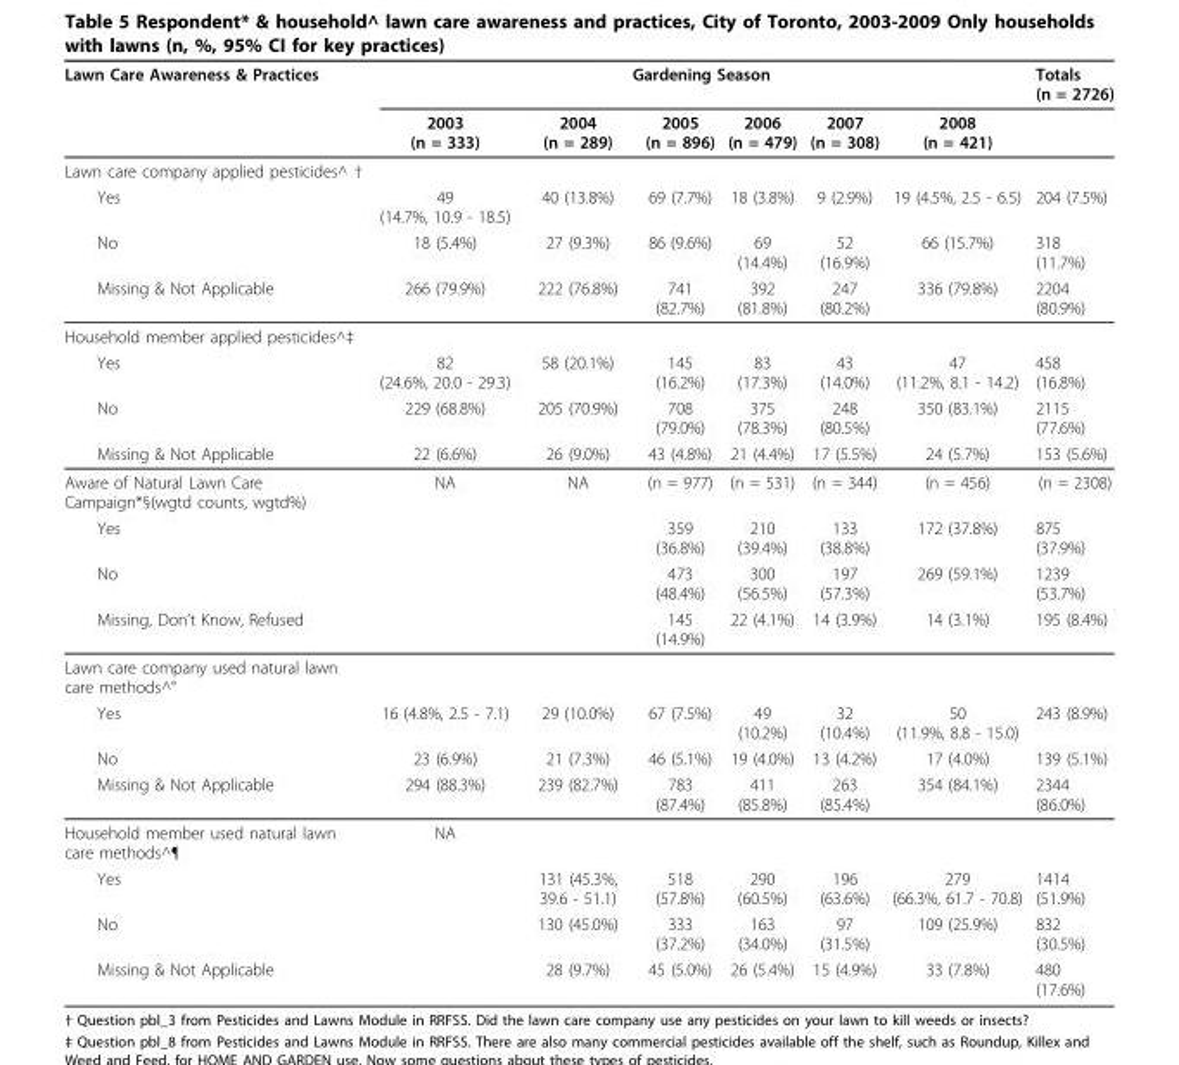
<table><thead><tr><td rowspan="2">Lawn Care Awareness &amp; Practices</td><td colspan="6">Gardening Season</td><td rowspan="2">Totals (n = 2726)</td></tr><tr><td>2003 (n = 333)</td><td>2004 (n = 289)</td><td>2005 (n = 896)</td><td>2006 (n = 479)</td><td>2007 (n = 308)</td><td>2008 (n = 421)</td></tr></thead><tbody><tr><td colspan="8">Lawn care company applied pesticides^ †</td></tr><tr><td>Yes</td><td>49 (14.7%, 10.9 - 18.5)</td><td>40 (13.8%)</td><td>69 (7.7%)</td><td>18 (3.8%)</td><td>9 (2.9%)</td><td>19 (4.5%, 2.5 - 6.5)</td><td>204 (7.5%)</td></tr><tr><td>No</td><td>18 (5.4%)</td><td>27 (9.3%)</td><td>86 (9.6%)</td><td>69 (14.4%)</td><td>52 (16.9%)</td><td>66 (15.7%)</td><td>318 (11.7%)</td></tr><tr><td>Missing &amp; Not Applicable</td><td>266 (79.9%)</td><td>222 (76.8%)</td><td>741 (82.7%)</td><td>392 (81.8%)</td><td>247 (80.2%)</td><td>336 (79.8%)</td><td>2204 (80.9%)</td></tr><tr><td colspan="8">Household member applied pesticides^‡</td></tr><tr><td>Yes</td><td>82 (24.6%, 20.0 - 29.3)</td><td>58 (20.1%)</td><td>145 (16.2%)</td><td>83 (17.3%)</td><td>43 (14.0%)</td><td>47 (11.2%, 8.1 - 14.2)</td><td>458 (16.8%)</td></tr><tr><td>No</td><td>229 (68.8%)</td><td>205 (70.9%)</td><td>708 (79.0%)</td><td>375 (78.3%)</td><td>248 (80.5%)</td><td>350 (83.1%)</td><td>2115 (77.6%)</td></tr><tr><td>Missing &amp; Not Applicable</td><td>22 (6.6%)</td><td>26 (9.0%)</td><td>43 (4.8%)</td><td>21 (4.4%)</td><td>17 (5.5%)</td><td>24 (5.7%)</td><td>153 (5.6%)</td></tr><tr><td>Aware of Natural Lawn Care Campaign*§(wgtd counts, wgtd%)</td><td>NA</td><td>NA</td><td>(n = 977)</td><td>(n = 531)</td><td>(n = 344)</td><td>(n = 456)</td><td>(n = 2308)</td></tr><tr><td>Yes</td><td></td><td></td><td>359 (36.8%)</td><td>210 (39.4%)</td><td>133 (38.8%)</td><td>172 (37.8%)</td><td>875 (37.9%)</td></tr><tr><td>No</td><td></td><td></td><td>473 (48.4%)</td><td>300 (56.5%)</td><td>197 (57.3%)</td><td>269 (59.1%)</td><td>1239 (53.7%)</td></tr><tr><td>Missing, Don’t Know, Refused</td><td></td><td></td><td>145 (14.9%)</td><td>22 (4.1%)</td><td>14 (3.9%)</td><td>14 (3.1%)</td><td>195 (8.4%)</td></tr><tr><td colspan="8">Lawn care company used natural lawn care methods^°</td></tr><tr><td>Yes</td><td>16 (4.8%, 2.5 - 7.1)</td><td>29 (10.0%)</td><td>67 (7.5%)</td><td>49 (10.2%)</td><td>32 (10.4%)</td><td>50 (11.9%, 8.8 - 15.0)</td><td>243 (8.9%)</td></tr><tr><td>No</td><td>23 (6.9%)</td><td>21 (7.3%)</td><td>46 (5.1%)</td><td>19 (4.0%)</td><td>13 (4.2%)</td><td>17 (4.0%)</td><td>139 (5.1%)</td></tr><tr><td>Missing &amp; Not Applicable</td><td>294 (88.3%)</td><td>239 (82.7%)</td><td>783 (87.4%)</td><td>411 (85.8%)</td><td>263 (85.4%)</td><td>354 (84.1%)</td><td>2344 (86.0%)</td></tr><tr><td>Household member used natural lawn care methods^¶</td><td>NA</td><td></td><td></td><td></td><td></td><td></td><td></td></tr><tr><td>Yes</td><td></td><td>131 (45.3%, 39.6 - 51.1)</td><td>518 (57.8%)</td><td>290 (60.5%)</td><td>196 (63.6%)</td><td>279 (66.3%, 61.7 - 70.8)</td><td>1414 (51.9%)</td></tr><tr><td>No</td><td></td><td>130 (45.0%)</td><td>333 (37.2%)</td><td>163 (34.0%)</td><td>97 (31.5%)</td><td>109 (25.9%)</td><td>832 (30.5%)</td></tr><tr><td>Missing &amp; Not Applicable</td><td></td><td>28 (9.7%)</td><td>45 (5.0%)</td><td>26 (5.4%)</td><td>15 (4.9%)</td><td>33 (7.8%)</td><td>480 (17.6%)</td></tr></tbody></table>